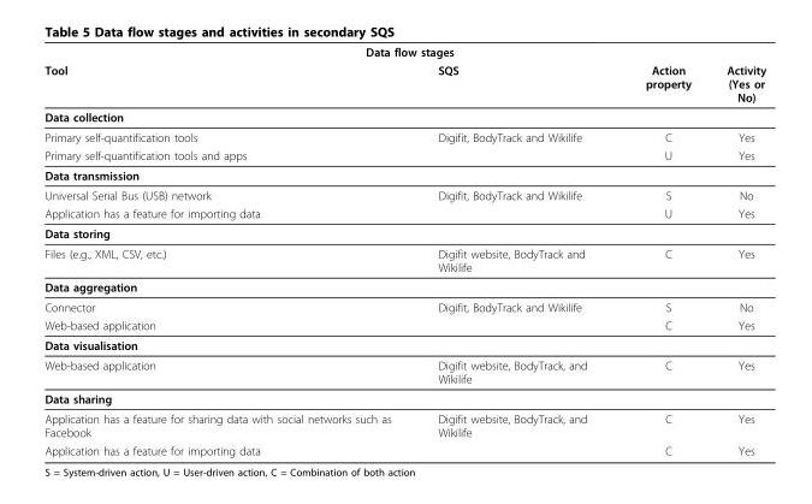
<table><thead><tr><td colspan="4">Data flow stages</td></tr><tr><td>Tool</td><td>SQS</td><td>Action property</td><td>Activity (Yes or No)</td></tr></thead><tbody><tr><td colspan="4">Data collection</td></tr><tr><td>Primary self-quantification tools</td><td>Digifit, BodyTrack and Wikilife</td><td>C</td><td>Yes</td></tr><tr><td>Primary self-quantification tools and apps</td><td></td><td>U</td><td>Yes</td></tr><tr><td colspan="4">Data transmission</td></tr><tr><td>Universal Serial Bus (USB) network</td><td>Digifit, BodyTrack and Wikilife</td><td>S</td><td>No</td></tr><tr><td>Application has a feature for importing data</td><td></td><td>U</td><td>Yes</td></tr><tr><td colspan="4">Data storing</td></tr><tr><td>Files (e.g., XML, CSV, etc.)</td><td>Digifit website, BodyTrack and Wikilife</td><td>C</td><td>Yes</td></tr><tr><td colspan="4">Data aggregation</td></tr><tr><td>Connector</td><td>Digifit, BodyTrack and Wikilife</td><td>S</td><td>No</td></tr><tr><td>Web-based application</td><td></td><td>C</td><td>Yes</td></tr><tr><td colspan="4">Data visualisation</td></tr><tr><td>Web-based application</td><td>Digifit website, BodyTrack, and Wikilife</td><td>C</td><td>Yes</td></tr><tr><td colspan="4">Data sharing</td></tr><tr><td>Application has a feature for sharing data with social networks such as Facebook</td><td>Digifit website, BodyTrack, and Wikilife</td><td>C</td><td>Yes</td></tr><tr><td>Application has a feature for importing data</td><td></td><td>C</td><td>Yes</td></tr></tbody></table>